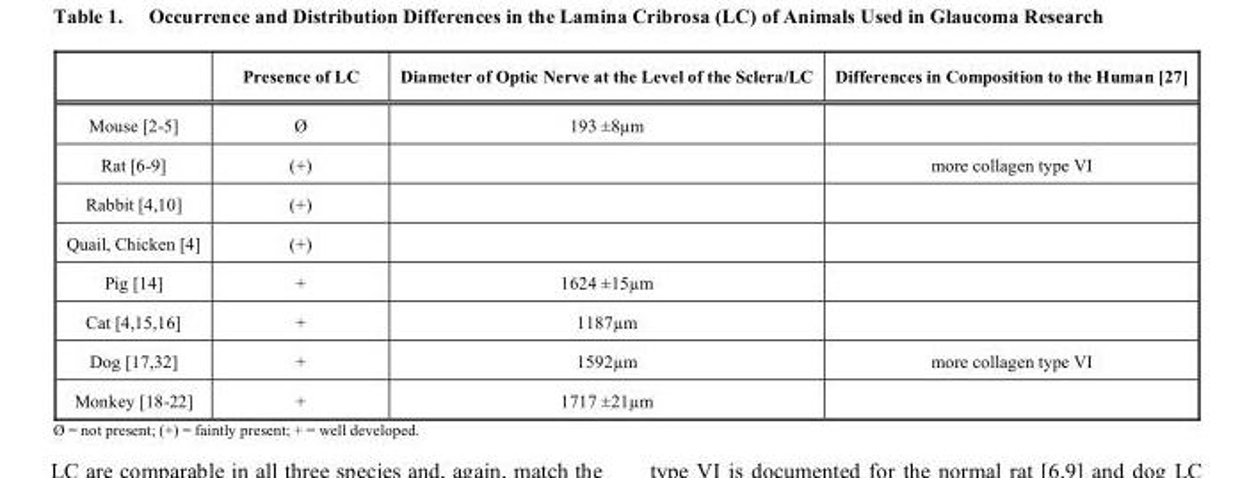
<table><thead><tr><td></td><td>Presence of LC</td><td>Diameter of Optic Nerve at the Level of the Sclera/LC</td><td>Differences in Composition to the Human [27]</td></tr></thead><tbody><tr><td>Mouse [2-5]</td><td>Ø</td><td>193 ±8µm</td><td></td></tr><tr><td>Rat [6-9]</td><td>(+)</td><td></td><td>more collagen type VI</td></tr><tr><td>Rabbit [4,10]</td><td>(+)</td><td></td><td></td></tr><tr><td>Quail, Chicken [4]</td><td>(+)</td><td></td><td></td></tr><tr><td>Pig [14]</td><td>+</td><td>1624 ±15µm</td><td></td></tr><tr><td>Cat [4,15,16]</td><td>+</td><td>1187µm</td><td></td></tr><tr><td>Dog [17,32]</td><td>+</td><td>1592µm</td><td>more collagen type VI</td></tr><tr><td>Monkey [18-22]</td><td>+</td><td>1717 ±21µm</td><td></td></tr></tbody></table>